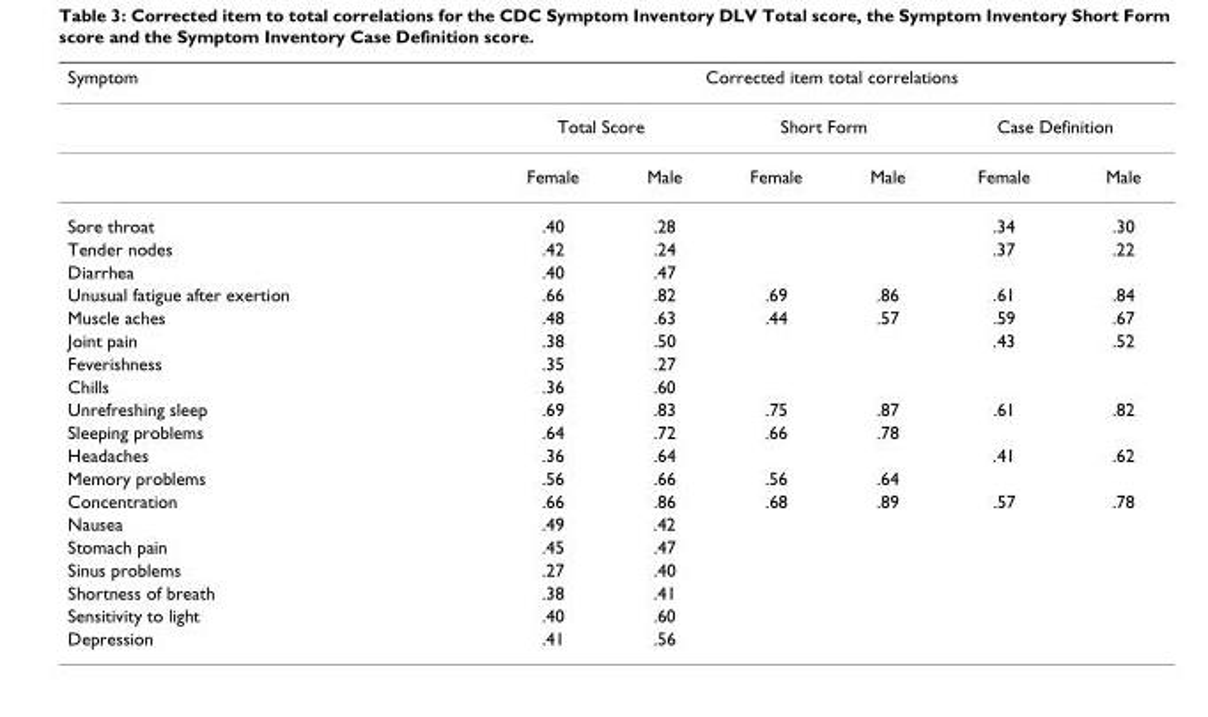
<table><thead><tr><td rowspan="3">Symptom</td><td colspan="6">Corrected item total correlations</td></tr><tr><td colspan="2">Total Score</td><td colspan="2">Short Form</td><td colspan="2">Case Definition</td></tr><tr><td>Female</td><td>Male</td><td>Female</td><td>Male</td><td>Female</td><td>Male</td></tr></thead><tbody><tr><td>Sore throat</td><td>.40</td><td>.28</td><td></td><td></td><td>.34</td><td>.30</td></tr><tr><td>Tender nodes</td><td>.42</td><td>.24</td><td></td><td></td><td>.37</td><td>.22</td></tr><tr><td>Diarrhea</td><td>.40</td><td>.47</td><td></td><td></td><td></td><td></td></tr><tr><td>Unusual fatigue after exertion</td><td>.66</td><td>.82</td><td>.69</td><td>.86</td><td>.61</td><td>.84</td></tr><tr><td>Muscle aches</td><td>.48</td><td>.63</td><td>.44</td><td>.57</td><td>.59</td><td>.67</td></tr><tr><td>Joint pain</td><td>.38</td><td>.50</td><td></td><td></td><td>.43</td><td>.52</td></tr><tr><td>Feverishness</td><td>.35</td><td>.27</td><td></td><td></td><td></td><td></td></tr><tr><td>Chills</td><td>.36</td><td>.60</td><td></td><td></td><td></td><td></td></tr><tr><td>Unrefreshing sleep</td><td>.69</td><td>.83</td><td>.75</td><td>.87</td><td>.61</td><td>.82</td></tr><tr><td>Sleeping problems</td><td>.64</td><td>.72</td><td>.66</td><td>.78</td><td></td><td></td></tr><tr><td>Headaches</td><td>.36</td><td>.64</td><td></td><td></td><td>.41</td><td>.62</td></tr><tr><td>Memory problems</td><td>.56</td><td>.66</td><td>.56</td><td>.64</td><td></td><td></td></tr><tr><td>Concentration</td><td>.66</td><td>.86</td><td>.68</td><td>.89</td><td>.57</td><td>.78</td></tr><tr><td>Nausea</td><td>.49</td><td>.42</td><td></td><td></td><td></td><td></td></tr><tr><td>Stomach pain</td><td>.45</td><td>.47</td><td></td><td></td><td></td><td></td></tr><tr><td>Sinus problems</td><td>.27</td><td>.40</td><td></td><td></td><td></td><td></td></tr><tr><td>Shortness of breath</td><td>.38</td><td>.41</td><td></td><td></td><td></td><td></td></tr><tr><td>Sensitivity to light</td><td>.40</td><td>.60</td><td></td><td></td><td></td><td></td></tr><tr><td>Depression</td><td>.41</td><td>.56</td><td></td><td></td><td></td><td></td></tr></tbody></table>